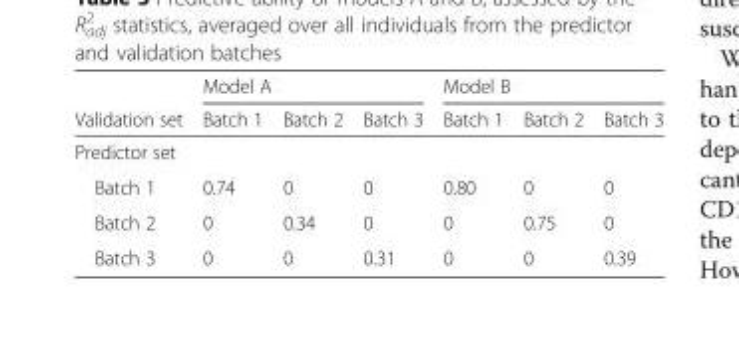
<table><thead><tr><td rowspan="2">Validation set</td><td colspan="3">Model A</td><td colspan="3">Model B</td></tr><tr><td>Batch 1</td><td>Batch 2</td><td>Batch 3</td><td>Batch 1</td><td>Batch 2</td><td>Batch 3</td></tr></thead><tbody><tr><td colspan="7">Predictor set</td></tr><tr><td>Batch 1</td><td>0.74</td><td>0</td><td>0</td><td>0.80</td><td>0</td><td>0</td></tr><tr><td>Batch 2</td><td>0</td><td>0.34</td><td>0</td><td>0</td><td>0.75</td><td>0</td></tr><tr><td>Batch 3</td><td>0</td><td>0</td><td>0.31</td><td>0</td><td>0</td><td>0.39</td></tr></tbody></table>